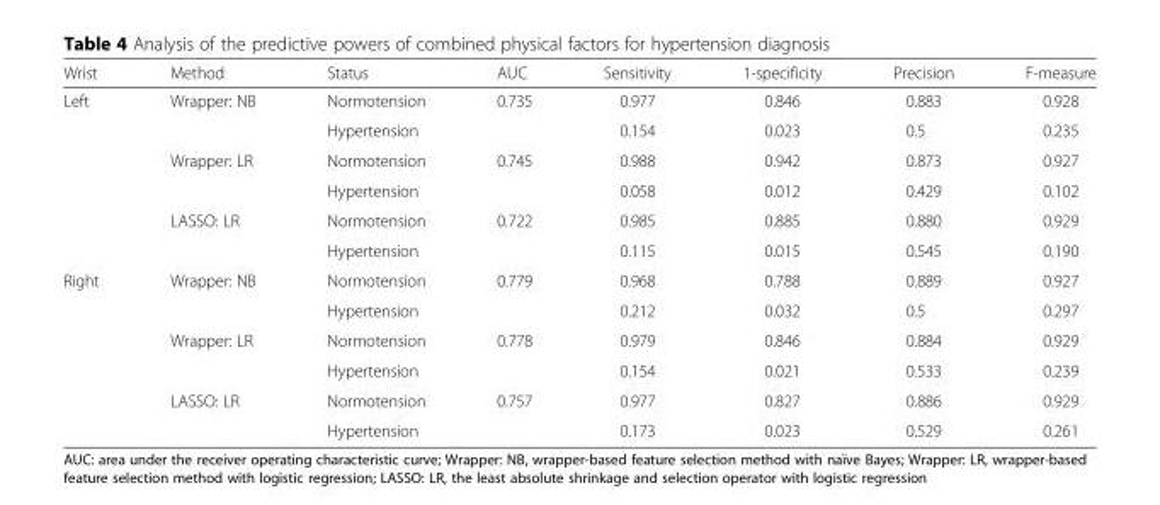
<table><thead><tr><td>Wrist</td><td>Method</td><td>Status</td><td>AUC</td><td>Sensitivity</td><td>1-specificity</td><td>Precision</td><td>F-measure</td></tr></thead><tbody><tr><td rowspan="6">Left</td><td>Wrapper: NB</td><td>Normotension</td><td>0.735</td><td>0.977</td><td>0.846</td><td>0.883</td><td>0.928</td></tr><tr><td></td><td>Hypertension</td><td></td><td>0.154</td><td>0.023</td><td>0.5</td><td>0.235</td></tr><tr><td>Wrapper: LR</td><td>Normotension</td><td>0.745</td><td>0.988</td><td>0.942</td><td>0.873</td><td>0.927</td></tr><tr><td></td><td>Hypertension</td><td></td><td>0.058</td><td>0.012</td><td>0.429</td><td>0.102</td></tr><tr><td>LASSO: LR</td><td>Normotension</td><td>0.722</td><td>0.985</td><td>0.885</td><td>0.880</td><td>0.929</td></tr><tr><td></td><td>Hypertension</td><td></td><td>0.115</td><td>0.015</td><td>0.545</td><td>0.190</td></tr><tr><td rowspan="6">Right</td><td>Wrapper: NB</td><td>Normotension</td><td>0.779</td><td>0.968</td><td>0.788</td><td>0.889</td><td>0.927</td></tr><tr><td></td><td>Hypertension</td><td></td><td>0.212</td><td>0.032</td><td>0.5</td><td>0.297</td></tr><tr><td>Wrapper: LR</td><td>Normotension</td><td>0.778</td><td>0.979</td><td>0.846</td><td>0.884</td><td>0.929</td></tr><tr><td></td><td>Hypertension</td><td></td><td>0.154</td><td>0.021</td><td>0.533</td><td>0.239</td></tr><tr><td>LASSO: LR</td><td>Normotension</td><td>0.757</td><td>0.977</td><td>0.827</td><td>0.886</td><td>0.929</td></tr><tr><td></td><td>Hypertension</td><td></td><td>0.173</td><td>0.023</td><td>0.529</td><td>0.261</td></tr></tbody></table>